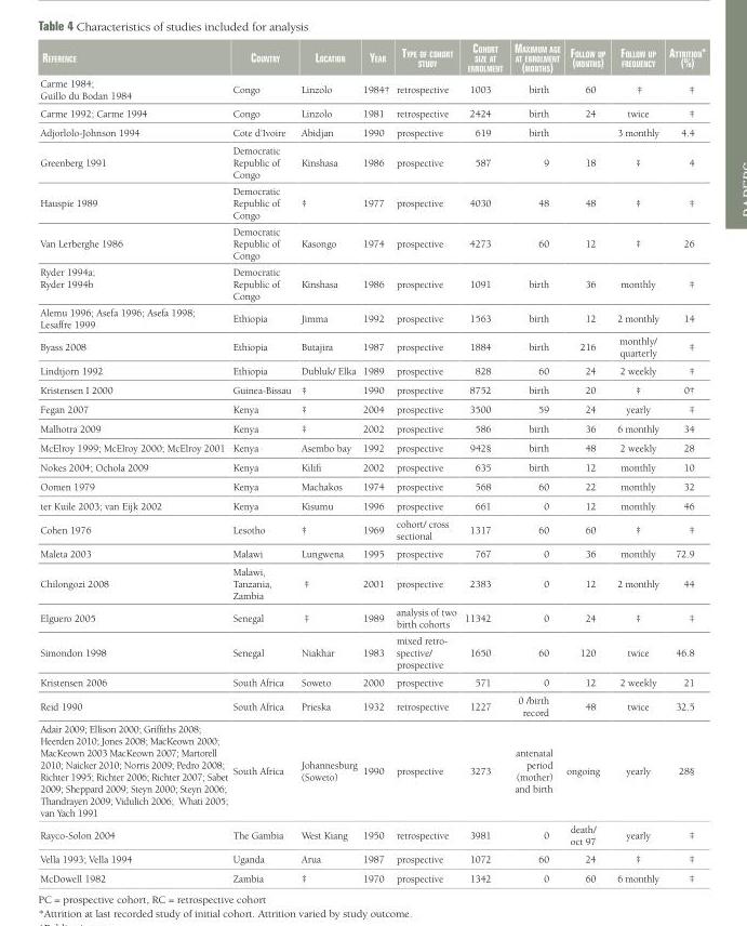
<table><thead><tr><td>RefeRence</td><td>countRy</td><td>Location</td><td>yeaR</td><td>type of cohoRt study</td><td>cohoRt size at enRoLment</td><td>maximum age at enRoLment (months)</td><td>foLLow up (months)</td><td>foLLow up fRequency</td><td>attRition* (%)</td></tr></thead><tbody><tr><td>Carme 1984; Guillo du Bodan 1984</td><td>Congo</td><td>Linzolo</td><td>1984†</td><td>retrospective</td><td>1003</td><td>birth</td><td>60</td><td>‡</td><td>‡</td></tr><tr><td>Carme 1992; Carme 1994</td><td>Congo</td><td>Linzolo</td><td>1981</td><td>retrospective</td><td>2424</td><td>birth</td><td>24</td><td>twice</td><td>‡</td></tr><tr><td>Adjorlolo-Johnson 1994</td><td>Cote d’Ivoire</td><td>Abidjan</td><td>1990</td><td>prospective</td><td>619</td><td>birth</td><td></td><td>3 monthly</td><td>4.4</td></tr><tr><td>Greenberg 1991</td><td>Democratic Republic of Congo</td><td>Kinshasa</td><td>1986</td><td>prospective</td><td>587</td><td>9</td><td>18</td><td>‡</td><td>4</td></tr><tr><td>Hauspie 1989</td><td>Democratic Republic of Congo</td><td>‡</td><td>1977</td><td>prospective</td><td>4030</td><td>48</td><td>48</td><td>‡</td><td>‡</td></tr><tr><td>Van Lerberghe 1986</td><td>Democratic Republic of Congo</td><td>Kasongo</td><td>1974</td><td>prospective</td><td>4273</td><td>60</td><td>12</td><td>‡</td><td>26</td></tr><tr><td>Ryder 1994a; Ryder 1994b</td><td>Democratic Republic of Congo</td><td>Kinshasa</td><td>1986</td><td>prospective</td><td>1091</td><td>birth</td><td>36</td><td>monthly</td><td>‡</td></tr><tr><td>Alemu 1996; Asefa 1996; Asefa 1998; Lesaffre 1999</td><td>Ethiopia</td><td>Jimma</td><td>1992</td><td>prospective</td><td>1563</td><td>birth</td><td>12</td><td>2 monthly</td><td>14</td></tr><tr><td>Byass 2008</td><td>Ethiopia</td><td>Butajira</td><td>1987</td><td>prospective</td><td>1884</td><td>birth</td><td>216</td><td>monthly/ quarterly</td><td>‡</td></tr><tr><td>Lindtjorn 1992</td><td>Ethiopia</td><td>Dubluk/ Elka</td><td>1989</td><td>prospective</td><td>828</td><td>60</td><td>24</td><td>2 weekly</td><td>‡</td></tr><tr><td>Kristensen I 2000</td><td>Guinea-Bissau</td><td>‡</td><td>1990</td><td>prospective</td><td>8752</td><td>birth</td><td>20</td><td>‡</td><td>0†</td></tr><tr><td>Fegan 2007</td><td>Kenya</td><td>‡</td><td>2004</td><td>prospective</td><td>3500</td><td>59</td><td>24</td><td>yearly</td><td>‡</td></tr><tr><td>Malhotra 2009</td><td>Kenya</td><td>‡</td><td>2002</td><td>prospective</td><td>586</td><td>birth</td><td>36</td><td>6 monthly</td><td>34</td></tr><tr><td>McElroy 1999; McElroy 2000; McElroy 2001</td><td>Kenya</td><td>Asembo bay</td><td>1992</td><td>prospective</td><td>942§</td><td>birth</td><td>48</td><td>2 weekly</td><td>28</td></tr><tr><td>Nokes 2004; Ochola 2009</td><td>Kenya</td><td>Kilifi</td><td>2002</td><td>prospective</td><td>635</td><td>birth</td><td>12</td><td>monthly</td><td>10</td></tr><tr><td>Oomen 1979</td><td>Kenya</td><td>Machakos</td><td>1974</td><td>prospective</td><td>568</td><td>60</td><td>22</td><td>monthly</td><td>32</td></tr><tr><td>ter Kuile 2003; van Eijk 2002</td><td>Kenya</td><td>Kisumu</td><td>1996</td><td>prospective</td><td>661</td><td>0</td><td>12</td><td>monthly</td><td>46</td></tr><tr><td>Cohen 1976</td><td>Lesotho</td><td>‡</td><td>1969</td><td>cohort/ cross sectional</td><td>1317</td><td>60</td><td>60</td><td>‡</td><td>‡</td></tr><tr><td>Maleta 2003</td><td>Malawi</td><td>Lungwena</td><td>1995</td><td>prospective</td><td>767</td><td>0</td><td>36</td><td>monthly</td><td>72.9</td></tr><tr><td>Chilongozi 2008</td><td>Malawi, Tanzania, Zambia</td><td>‡</td><td>2001</td><td>prospective</td><td>2383</td><td>0</td><td>12</td><td>2 monthly</td><td>44</td></tr><tr><td>Elguero 2005</td><td>Senegal</td><td>‡</td><td>1989</td><td>analysis of two birth cohorts</td><td>11342</td><td>0</td><td>24</td><td>‡</td><td>‡</td></tr><tr><td>Simondon 1998</td><td>Senegal</td><td>Niakhar</td><td>1983</td><td>mixed retro- spective/ prospective</td><td>1650</td><td>60</td><td>120</td><td>twice</td><td>46.8</td></tr><tr><td>Kristensen 2006</td><td>South Africa</td><td>Soweto</td><td>2000</td><td>prospective</td><td>571</td><td>0</td><td>12</td><td>2 weekly</td><td>21</td></tr><tr><td>Reid 1990</td><td>South Africa</td><td>Prieska</td><td>1932</td><td>retrospective</td><td>1227</td><td>0 /birth record</td><td>48</td><td>twice</td><td>32.5</td></tr><tr><td>Adair 2009; Ellison 2000; Griffiths 2008; Heerden 2010; Jones 2008; MacKeown 2000; MacKeown 2003 MacKeown 2007; Martorell 2010; Naicker 2010; Norris 2009; Pedro 2008; Richter 1995; Richter 2006; Richter 2007; Sabet 2009; Sheppard 2009; Steyn 2000; Steyn 2006; Thandrayen 2009; Vidulich 2006; Whati 2005; van Yach 1991</td><td>South Africa</td><td>Johannesburg (Soweto)</td><td>1990</td><td>prospective</td><td>3273</td><td>antenatal period (mother) and birth</td><td>ongoing</td><td>yearly</td><td>28§</td></tr><tr><td>Rayco-Solon 2004</td><td>The Gambia</td><td>West Kiang</td><td>1950</td><td>retrospective</td><td>3981</td><td>0</td><td>death/ oct 97</td><td>yearly</td><td>‡</td></tr><tr><td>Vella 1993; Vella 1994</td><td>Uganda</td><td>Arua</td><td>1987</td><td>prospective</td><td>1072</td><td>60</td><td>24</td><td>‡</td><td>‡</td></tr><tr><td>McDowell 1982</td><td>Zambia</td><td>‡</td><td>1970</td><td>prospective</td><td>1342</td><td>0</td><td>60</td><td>6 monthly</td><td>‡</td></tr></tbody></table>